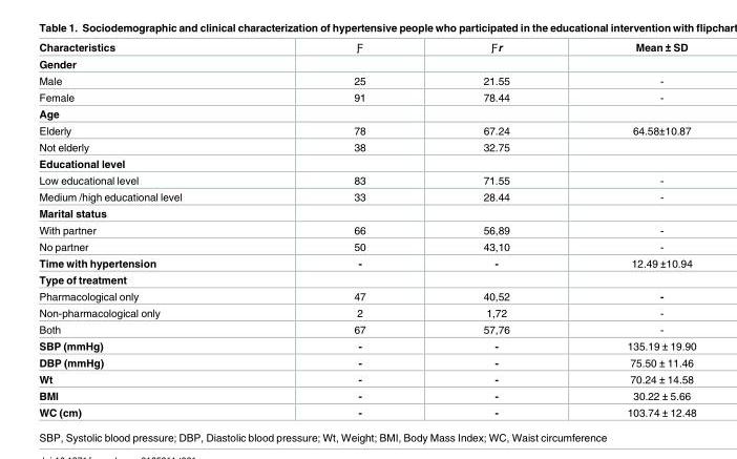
<table><thead><tr><td>Characteristics</td><td>Ƒ</td><td>Ƒr</td><td>Mean ± SD</td></tr></thead><tbody><tr><td colspan="4">Gender</td></tr><tr><td>Male</td><td>25</td><td>21.55</td><td>-</td></tr><tr><td>Female</td><td>91</td><td>78.44</td><td>-</td></tr><tr><td colspan="4">Age</td></tr><tr><td>Elderly</td><td>78</td><td>67.24</td><td>64.58±10.87</td></tr><tr><td>Not elderly</td><td>38</td><td>32.75</td><td></td></tr><tr><td colspan="4">Educational level</td></tr><tr><td>Low educational level</td><td>83</td><td>71.55</td><td>-</td></tr><tr><td>Medium /high educational level</td><td>33</td><td>28.44</td><td>-</td></tr><tr><td colspan="4">Marital status</td></tr><tr><td>With partner</td><td>66</td><td>56,89</td><td>-</td></tr><tr><td>No partner</td><td>50</td><td>43,10</td><td>-</td></tr><tr><td>Time with hypertension</td><td>-</td><td>-</td><td>12.49 ±10.94</td></tr><tr><td colspan="4">Type of treatment</td></tr><tr><td>Pharmacological only</td><td>47</td><td>40,52</td><td>-</td></tr><tr><td>Non-pharmacological only</td><td>2</td><td>1,72</td><td>-</td></tr><tr><td>Both</td><td>67</td><td>57,76</td><td>-</td></tr><tr><td>SBP (mmHg)</td><td>-</td><td>-</td><td>135.19 ± 19.90</td></tr><tr><td>DBP (mmHg)</td><td>-</td><td>-</td><td>75.50 ± 11.46</td></tr><tr><td>Wt</td><td>-</td><td>-</td><td>70.24 ± 14.58</td></tr><tr><td>BMI</td><td>-</td><td>-</td><td>30.22 ± 5.66</td></tr><tr><td>WC (cm)</td><td>-</td><td>-</td><td>103.74 ± 12.48</td></tr></tbody></table>